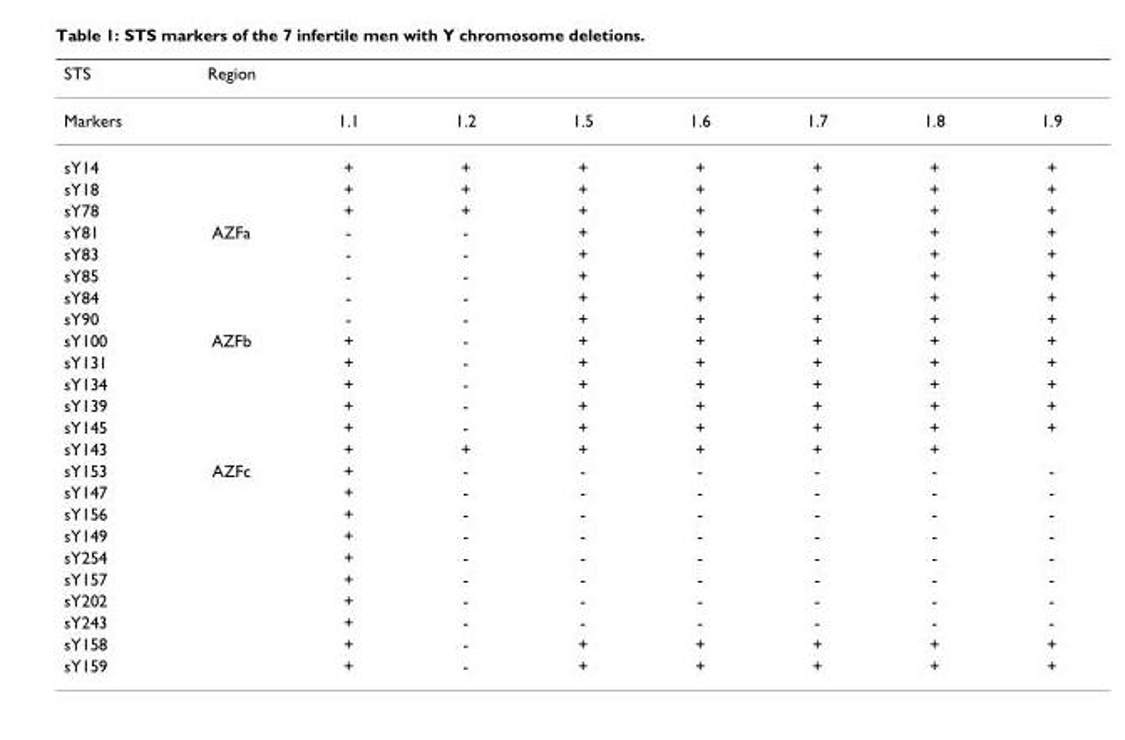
<table><thead><tr><td>STS</td><td>Region</td><td></td><td></td><td></td><td></td><td></td><td></td><td></td></tr></thead><tbody><tr><td>Markers</td><td></td><td>1.1</td><td>1.2</td><td>1.5</td><td>1.6</td><td>1.7</td><td>1.8</td><td>1.9</td></tr><tr><td>sY14</td><td></td><td>+</td><td>+</td><td>+</td><td>+</td><td>+</td><td>+</td><td>+</td></tr><tr><td>sY18</td><td></td><td>+</td><td>+</td><td>+</td><td>+</td><td>+</td><td>+</td><td>+</td></tr><tr><td>sY78</td><td></td><td>+</td><td>+</td><td>+</td><td>+</td><td>+</td><td>+</td><td>+</td></tr><tr><td>sY81</td><td>AZFa</td><td>-</td><td>-</td><td>+</td><td>+</td><td>+</td><td>+</td><td>+</td></tr><tr><td>sY83</td><td></td><td>-</td><td>-</td><td>+</td><td>+</td><td>+</td><td>+</td><td>+</td></tr><tr><td>sY85</td><td></td><td>-</td><td>-</td><td>+</td><td>+</td><td>+</td><td>+</td><td>+</td></tr><tr><td>sY84</td><td></td><td>-</td><td>-</td><td>+</td><td>+</td><td>+</td><td>+</td><td>+</td></tr><tr><td>sY90</td><td></td><td>-</td><td>-</td><td>+</td><td>+</td><td>+</td><td>+</td><td>+</td></tr><tr><td>sY100</td><td>AZFb</td><td>+</td><td>-</td><td>+</td><td>+</td><td>+</td><td>+</td><td>+</td></tr><tr><td>sY131</td><td></td><td>+</td><td>-</td><td>+</td><td>+</td><td>+</td><td>+</td><td>+</td></tr><tr><td>sY134</td><td></td><td>+</td><td>-</td><td>+</td><td>+</td><td>+</td><td>+</td><td>+</td></tr><tr><td>sY139</td><td></td><td>+</td><td>-</td><td>+</td><td>+</td><td>+</td><td>+</td><td>+</td></tr><tr><td>sY145</td><td></td><td>+</td><td>-</td><td>+</td><td>+</td><td>+</td><td>+</td><td>+</td></tr><tr><td>sY143</td><td></td><td>+</td><td>+</td><td>+</td><td>+</td><td>+</td><td>+</td><td></td></tr><tr><td>sY153</td><td>AZFc</td><td>+</td><td>-</td><td>-</td><td>-</td><td>-</td><td>-</td><td>-</td></tr><tr><td>sY147</td><td></td><td>+</td><td>-</td><td>-</td><td>-</td><td>-</td><td>-</td><td>-</td></tr><tr><td>sY156</td><td></td><td>+</td><td>-</td><td>-</td><td>-</td><td>-</td><td>-</td><td>-</td></tr><tr><td>sY149</td><td></td><td>+</td><td>-</td><td>-</td><td>-</td><td>-</td><td>-</td><td>-</td></tr><tr><td>sY254</td><td></td><td>+</td><td>-</td><td>-</td><td>-</td><td>-</td><td>-</td><td>-</td></tr><tr><td>sY157</td><td></td><td>+</td><td>-</td><td>-</td><td>-</td><td>-</td><td>-</td><td>-</td></tr><tr><td>sY202</td><td></td><td>+</td><td>-</td><td>-</td><td>-</td><td>-</td><td>-</td><td>-</td></tr><tr><td>sY243</td><td></td><td>+</td><td>-</td><td>-</td><td>-</td><td>-</td><td>-</td><td>-</td></tr><tr><td>sY158</td><td></td><td>+</td><td>-</td><td>+</td><td>+</td><td>+</td><td>+</td><td>+</td></tr><tr><td>sY159</td><td></td><td>+</td><td>-</td><td>+</td><td>+</td><td>+</td><td>+</td><td>+</td></tr></tbody></table>